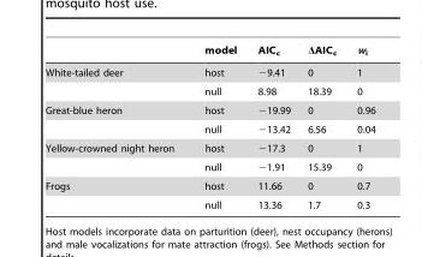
<table><thead><tr><td></td><td>model</td><td>AIC<sub>c</sub></td><td>ΔAIC<sub>c</sub></td><td>w<sub>i</sub></td></tr></thead><tbody><tr><td rowspan="2">White-tailed deer</td><td>host</td><td>−9.41</td><td>0</td><td>1</td></tr><tr><td>null</td><td>8.98</td><td>18.39</td><td>0</td></tr><tr><td rowspan="2">Great-blue heron</td><td>host</td><td>−19.99</td><td>0</td><td>0.96</td></tr><tr><td>null</td><td>−13.42</td><td>6.56</td><td>0.04</td></tr><tr><td rowspan="2">Yellow-crowned night heron</td><td>host</td><td>−17.3</td><td>0</td><td>1</td></tr><tr><td>null</td><td>−1.91</td><td>15.39</td><td>0</td></tr><tr><td rowspan="2">Frogs</td><td>host</td><td>11.66</td><td>0</td><td>0.7</td></tr><tr><td>null</td><td>13.36</td><td>1.7</td><td>0.3</td></tr></tbody></table>